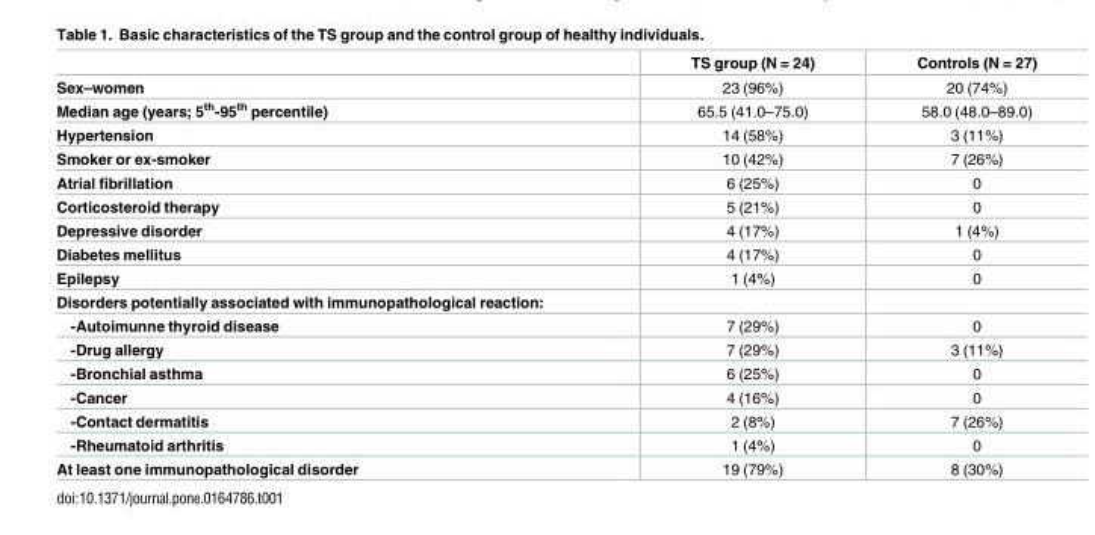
<table><thead><tr><td></td><td>TS group (N = 24)</td><td>Controls (N = 27)</td></tr></thead><tbody><tr><td>Sex–women</td><td>23 (96%)</td><td>20 (74%)</td></tr><tr><td>Median age (years; 5<sup>th</sup>-95<sup>th</sup> percentile)</td><td>65.5 (41.0–75.0)</td><td>58.0 (48.0–89.0)</td></tr><tr><td>Hypertension</td><td>14 (58%)</td><td>3 (11%)</td></tr><tr><td>Smoker or ex-smoker</td><td>10 (42%)</td><td>7 (26%)</td></tr><tr><td>Atrial fibrillation</td><td>6 (25%)</td><td>0</td></tr><tr><td>Corticosteroid therapy</td><td>5 (21%)</td><td>0</td></tr><tr><td>Depressive disorder</td><td>4 (17%)</td><td>1 (4%)</td></tr><tr><td>Diabetes mellitus</td><td>4 (17%)</td><td>0</td></tr><tr><td>Epilepsy</td><td>1 (4%)</td><td>0</td></tr><tr><td colspan="3">Disorders potentially associated with immunopathological reaction:</td></tr><tr><td>-Autoimunne thyroid disease</td><td>7 (29%)</td><td>0</td></tr><tr><td>-Drug allergy</td><td>7 (29%)</td><td>3 (11%)</td></tr><tr><td>-Bronchial asthma</td><td>6 (25%)</td><td>0</td></tr><tr><td>-Cancer</td><td>4 (16%)</td><td>0</td></tr><tr><td>-Contact dermatitis</td><td>2 (8%)</td><td>7 (26%)</td></tr><tr><td>-Rheumatoid arthritis</td><td>1 (4%)</td><td>0</td></tr><tr><td>At least one immunopathological disorder</td><td>19 (79%)</td><td>8 (30%)</td></tr></tbody></table>